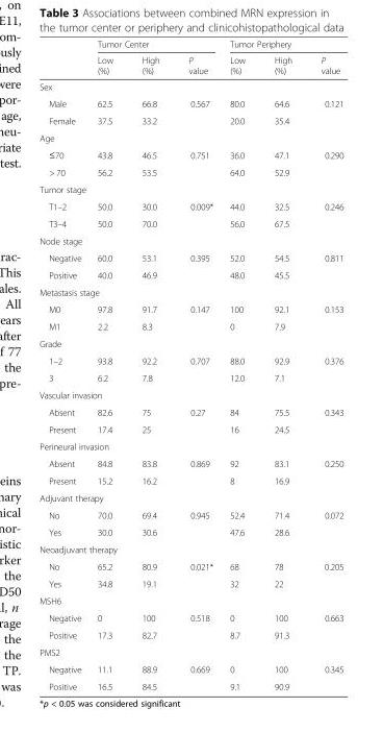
<table><thead><tr><td rowspan="2"></td><td colspan="3">Tumor Center</td><td colspan="3">Tumor Periphery</td></tr><tr><td>Low (%)</td><td>High (%)</td><td>P value</td><td>Low (%)</td><td>High (%)</td><td>P value</td></tr></thead><tbody><tr><td colspan="7">Sex</td></tr><tr><td>Male</td><td>62.5</td><td>66.8</td><td>0.567</td><td>80.0</td><td>64.6</td><td>0.121</td></tr><tr><td>Female</td><td>37.5</td><td>33.2</td><td></td><td>20.0</td><td>35.4</td><td></td></tr><tr><td colspan="7">Age</td></tr><tr><td>≤70</td><td>43.8</td><td>46.5</td><td>0.751</td><td>36.0</td><td>47.1</td><td>0.290</td></tr><tr><td>&gt; 70</td><td>56.2</td><td>53.5</td><td></td><td>64.0</td><td>52.9</td><td></td></tr><tr><td colspan="7">Tumor stage</td></tr><tr><td>T1–2</td><td>50.0</td><td>30.0</td><td>0.009*</td><td>44.0</td><td>32.5</td><td>0.246</td></tr><tr><td>T3–4</td><td>50.0</td><td>70.0</td><td></td><td>56.0</td><td>67.5</td><td></td></tr><tr><td colspan="7">Node stage</td></tr><tr><td>Negative</td><td>60.0</td><td>53.1</td><td>0.395</td><td>52.0</td><td>54.5</td><td>0.811</td></tr><tr><td>Positive</td><td>40.0</td><td>46.9</td><td></td><td>48.0</td><td>45.5</td><td></td></tr><tr><td colspan="7">Metastasis stage</td></tr><tr><td>M0</td><td>97.8</td><td>91.7</td><td>0.147</td><td>100</td><td>92.1</td><td>0.153</td></tr><tr><td>M1</td><td>2.2</td><td>8.3</td><td></td><td>0</td><td>7.9</td><td></td></tr><tr><td colspan="7">Grade</td></tr><tr><td>1–2</td><td>93.8</td><td>92.2</td><td>0.707</td><td>88.0</td><td>92.9</td><td>0.376</td></tr><tr><td>3</td><td>6.2</td><td>7.8</td><td></td><td>12.0</td><td>7.1</td><td></td></tr><tr><td colspan="7">Vascular invasion</td></tr><tr><td>Absent</td><td>82.6</td><td>75</td><td>0.27</td><td>84</td><td>75.5</td><td>0.343</td></tr><tr><td>Present</td><td>17.4</td><td>25</td><td></td><td>16</td><td>24.5</td><td></td></tr><tr><td colspan="7">Perineural invasion</td></tr><tr><td>Absent</td><td>84.8</td><td>83.8</td><td>0.869</td><td>92</td><td>83.1</td><td>0.250</td></tr><tr><td>Present</td><td>15.2</td><td>16.2</td><td></td><td>8</td><td>16.9</td><td></td></tr><tr><td colspan="7">Adjuvant therapy</td></tr><tr><td>No</td><td>70.0</td><td>69.4</td><td>0.945</td><td>52.4</td><td>71.4</td><td>0.072</td></tr><tr><td>Yes</td><td>30.0</td><td>30.6</td><td></td><td>47.6</td><td>28.6</td><td></td></tr><tr><td colspan="7">Neoadjuvant therapy</td></tr><tr><td>No</td><td>65.2</td><td>80.9</td><td>0.021*</td><td>68</td><td>78</td><td>0.205</td></tr><tr><td>Yes</td><td>34.8</td><td>19.1</td><td></td><td>32</td><td>22</td><td></td></tr><tr><td colspan="7">MSH6</td></tr><tr><td>Negative</td><td>0</td><td>100</td><td>0.518</td><td>0</td><td>100</td><td>0.663</td></tr><tr><td>Positive</td><td>17.3</td><td>82.7</td><td></td><td>8.7</td><td>91.3</td><td></td></tr><tr><td colspan="7">PMS2</td></tr><tr><td>Negative</td><td>11.1</td><td>88.9</td><td>0.669</td><td>0</td><td>100</td><td>0.345</td></tr><tr><td>Positive</td><td>16.5</td><td>84.5</td><td></td><td>9.1</td><td>90.9</td><td></td></tr></tbody></table>